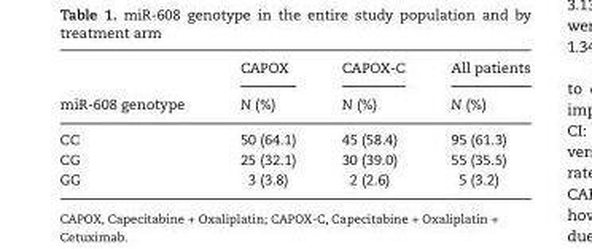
<table><thead><tr><td rowspan="2">miR-608 genotype</td><td rowspan="2">CAPOX N (%)</td><td rowspan="2">CAPOX-C N (%)</td><td rowspan="2">All patients N (%)</td></tr><tr></tr></thead><tbody><tr><td>CC</td><td>50 (64.1)</td><td>45 (58.4)</td><td>95 (61.3)</td></tr><tr><td>CG</td><td>25 (32.1)</td><td>30 (39.0)</td><td>55 (35.5)</td></tr><tr><td>GG</td><td>3 (3.8)</td><td>2 (2.6)</td><td>5 (3.2)</td></tr></tbody></table>